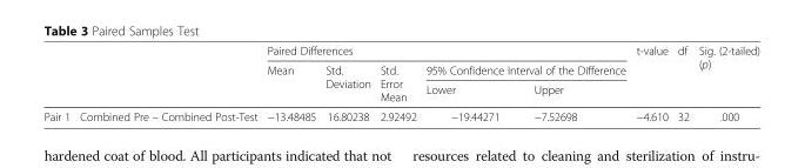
<table><thead><tr><td rowspan="3"></td><td rowspan="3"></td><td colspan="5">Paired Differences</td><td rowspan="3">t-value</td><td rowspan="3">df</td><td rowspan="3">Sig. (2-tailed) (p)</td></tr><tr><td rowspan="2">Mean</td><td rowspan="2">Std. Deviation</td><td rowspan="2">Std. Error Mean</td><td colspan="2">95% Confidence Interval of the Difference</td></tr><tr><td>Lower</td><td>Upper</td></tr></thead><tbody><tr><td>Pair 1</td><td>Combined Pre – Combined Post-Test</td><td>−13.48485</td><td>16.80238</td><td>2.92492</td><td>−19.44271</td><td>−7.52698</td><td>−4.610</td><td>32</td><td>.000</td></tr></tbody></table>